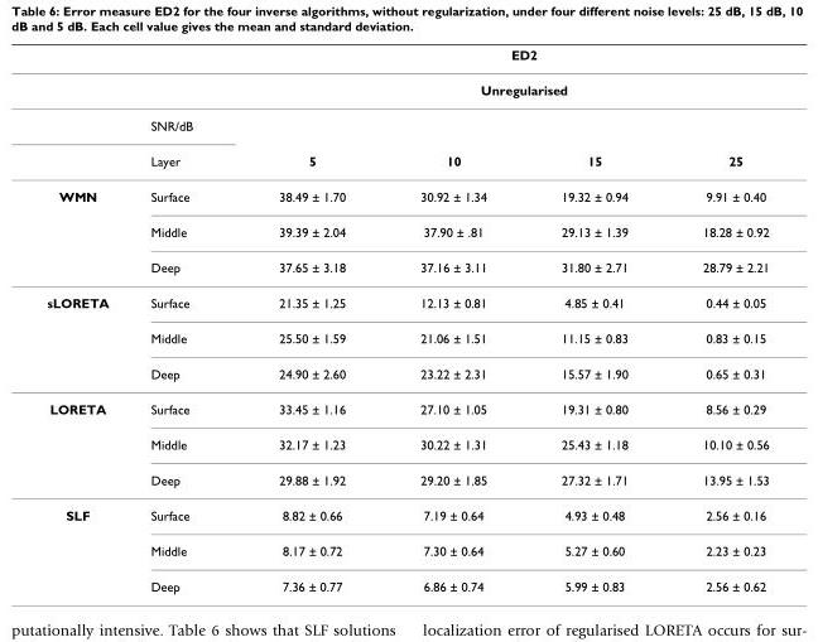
<table><thead><tr><td rowspan="3"></td><td rowspan="3">SNR/dB</td><td rowspan="2" colspan="4">ED2 Unregularised</td></tr><tr></tr><tr><td></td><td></td><td></td><td></td></tr></thead><tbody><tr><td></td><td>Layer</td><td>5</td><td>10</td><td>15</td><td>25</td></tr><tr><td rowspan="3">WMN</td><td>Surface</td><td>38.49 ± 1.70</td><td>30.92 ± 1.34</td><td>19.32 ± 0.94</td><td>9.91 ± 0.40</td></tr><tr><td>Middle</td><td>39.39 ± 2.04</td><td>37.90 ± .81</td><td>29.13 ± 1.39</td><td>18.28 ± 0.92</td></tr><tr><td>Deep</td><td>37.65 ± 3.18</td><td>37.16 ± 3.11</td><td>31.80 ± 2.71</td><td>28.79 ± 2.21</td></tr><tr><td rowspan="3">sLORETA</td><td>Surface</td><td>21.35 ± 1.25</td><td>12.13 ± 0.81</td><td>4.85 ± 0.41</td><td>0.44 ± 0.05</td></tr><tr><td>Middle</td><td>25.50 ± 1.59</td><td>21.06 ± 1.51</td><td>11.15 ± 0.83</td><td>0.83 ± 0.15</td></tr><tr><td>Deep</td><td>24.90 ± 2.60</td><td>23.22 ± 2.31</td><td>15.57 ± 1.90</td><td>0.65 ± 0.31</td></tr><tr><td rowspan="3">LORETA</td><td>Surface</td><td>33.45 ± 1.16</td><td>27.10 ± 1.05</td><td>19.31 ± 0.80</td><td>8.56 ± 0.29</td></tr><tr><td>Middle</td><td>32.17 ± 1.23</td><td>30.22 ± 1.31</td><td>25.43 ± 1.18</td><td>10.10 ± 0.56</td></tr><tr><td>Deep</td><td>29.88 ± 1.92</td><td>29.20 ± 1.85</td><td>27.32 ± 1.71</td><td>13.95 ± 1.53</td></tr><tr><td rowspan="3">SLF</td><td>Surface</td><td>8.82 ± 0.66</td><td>7.19 ± 0.64</td><td>4.93 ± 0.48</td><td>2.56 ± 0.16</td></tr><tr><td>Middle</td><td>8.17 ± 0.72</td><td>7.30 ± 0.64</td><td>5.27 ± 0.60</td><td>2.23 ± 0.23</td></tr><tr><td>Deep</td><td>7.36 ± 0.77</td><td>6.86 ± 0.74</td><td>5.99 ± 0.83</td><td>2.56 ± 0.62</td></tr></tbody></table>